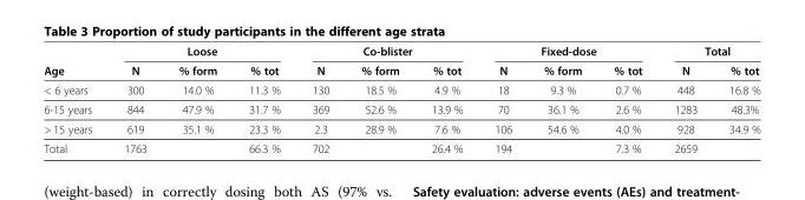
<table><thead><tr><td rowspan="2">Age</td><td colspan="3">Loose</td><td colspan="3">Co-blister</td><td colspan="3">Fixed-dose</td><td colspan="2">Total</td></tr><tr><td>N</td><td>% form</td><td>% tot</td><td>N</td><td>% form</td><td>% tot</td><td>N</td><td>% form</td><td>% tot</td><td>N</td><td>% tot</td></tr></thead><tbody><tr><td>&lt; 6 years</td><td>300</td><td>14.0 %</td><td>11.3 %</td><td>130</td><td>18.5 %</td><td>4.9 %</td><td>18</td><td>9.3 %</td><td>0.7 %</td><td>448</td><td>16.8 %</td></tr><tr><td>6-15 years</td><td>844</td><td>47.9 %</td><td>31.7 %</td><td>369</td><td>52.6 %</td><td>13.9 %</td><td>70</td><td>36.1 %</td><td>2.6 %</td><td>1283</td><td>48.3%</td></tr><tr><td>&gt; 15 years</td><td>619</td><td>35.1 %</td><td>23.3 %</td><td>2.3</td><td>28.9 %</td><td>7.6 %</td><td>106</td><td>54.6 %</td><td>4.0 %</td><td>928</td><td>34.9 %</td></tr><tr><td>Total</td><td>1763</td><td></td><td>66.3 %</td><td>702</td><td></td><td>26.4 %</td><td>194</td><td></td><td>7.3 %</td><td>2659</td><td></td></tr></tbody></table>